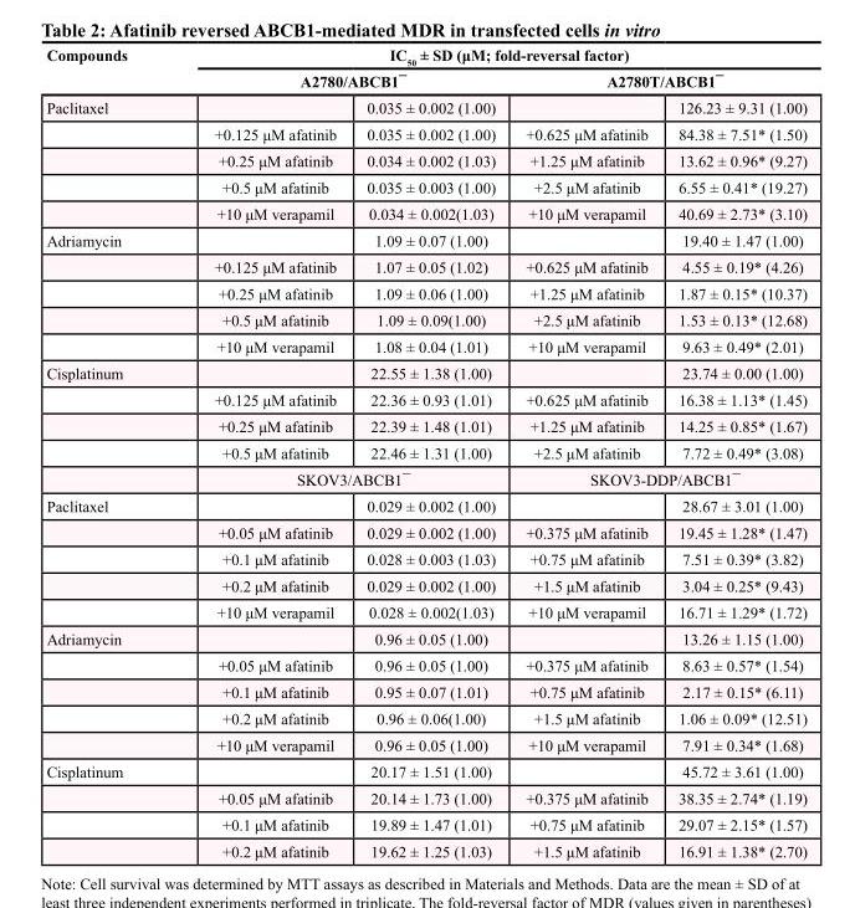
<table><thead><tr><td rowspan="3">Compounds Paclitaxel</td><td colspan="4">IC<sub>50</sub> ± SD (μM; fold-reversal factor)</td></tr><tr><td colspan="2">A2780/ABCB1¯</td><td colspan="2">A2780T/ABCB1¯</td></tr><tr><td></td><td>0.035 ± 0.002 (1.00)</td><td></td><td>126.23 ± 9.31 (1.00)</td></tr></thead><tbody><tr><td></td><td>+0.125 μM afatinib</td><td>0.035 ± 0.002 (1.00)</td><td>+0.625 μM afatinib</td><td>84.38 ± 7.51* (1.50)</td></tr><tr><td></td><td>+0.25 μM afatinib</td><td>0.034 ± 0.002 (1.03)</td><td>+1.25 μM afatinib</td><td>13.62 ± 0.96* (9.27)</td></tr><tr><td></td><td>+0.5 μM afatinib</td><td>0.035 ± 0.003 (1.00)</td><td>+2.5 μM afatinib</td><td>6.55 ± 0.41* (19.27)</td></tr><tr><td></td><td>+10 μM verapamil</td><td>0.034 ± 0.002(1.03)</td><td>+10 μM verapamil</td><td>40.69 ± 2.73* (3.10)</td></tr><tr><td rowspan="5">Adriamycin</td><td></td><td>1.09 ± 0.07 (1.00)</td><td></td><td>19.40 ± 1.47 (1.00)</td></tr><tr><td>+0.125 μM afatinib</td><td>1.07 ± 0.05 (1.02)</td><td>+0.625 μM afatinib</td><td>4.55 ± 0.19* (4.26)</td></tr><tr><td>+0.25 μM afatinib</td><td>1.09 ± 0.06 (1.00)</td><td>+1.25 μM afatinib</td><td>1.87 ± 0.15* (10.37)</td></tr><tr><td>+0.5 μM afatinib</td><td>1.09 ± 0.09(1.00)</td><td>+2.5 μM afatinib</td><td>1.53 ± 0.13* (12.68)</td></tr><tr><td>+10 μM verapamil</td><td>1.08 ± 0.04 (1.01)</td><td>+10 μM verapamil</td><td>9.63 ± 0.49* (2.01)</td></tr><tr><td rowspan="5">Cisplatinum</td><td></td><td>22.55 ± 1.38 (1.00)</td><td></td><td>23.74 ± 0.00 (1.00)</td></tr><tr><td>+0.125 μM afatinib</td><td>22.36 ± 0.93 (1.01)</td><td>+0.625 μM afatinib</td><td>16.38 ± 1.13* (1.45)</td></tr><tr><td>+0.25 μM afatinib</td><td>22.39 ± 1.48 (1.01)</td><td>+1.25 μM afatinib</td><td>14.25 ± 0.85* (1.67)</td></tr><tr><td>+0.5 μM afatinib</td><td>22.46 ± 1.31 (1.00)</td><td>+2.5 μM afatinib</td><td>7.72 ± 0.49* (3.08)</td></tr><tr><td colspan="2">SKOV3/ABCB1¯</td><td colspan="2">SKOV3-DDP/ABCB1¯</td></tr><tr><td rowspan="5">Paclitaxel</td><td></td><td>0.029 ± 0.002 (1.00)</td><td></td><td>28.67 ± 3.01 (1.00)</td></tr><tr><td>+0.05 μM afatinib</td><td>0.029 ± 0.002 (1.00)</td><td>+0.375 μM afatinib</td><td>19.45 ± 1.28* (1.47)</td></tr><tr><td>+0.1 μM afatinib</td><td>0.028 ± 0.003 (1.03)</td><td>+0.75 μM afatinib</td><td>7.51 ± 0.39* (3.82)</td></tr><tr><td>+0.2 μM afatinib</td><td>0.029 ± 0.002 (1.00)</td><td>+1.5 μM afatinib</td><td>3.04 ± 0.25* (9.43)</td></tr><tr><td>+10 μM verapamil</td><td>0.028 ± 0.002(1.03)</td><td>+10 μM verapamil</td><td>16.71 ± 1.29* (1.72)</td></tr><tr><td rowspan="5">Adriamycin</td><td></td><td>0.96 ± 0.05 (1.00)</td><td></td><td>13.26 ± 1.15 (1.00)</td></tr><tr><td>+0.05 μM afatinib</td><td>0.96 ± 0.05 (1.00)</td><td>+0.375 μM afatinib</td><td>8.63 ± 0.57* (1.54)</td></tr><tr><td>+0.1 μM afatinib</td><td>0.95 ± 0.07 (1.01)</td><td>+0.75 μM afatinib</td><td>2.17 ± 0.15* (6.11)</td></tr><tr><td>+0.2 μM afatinib</td><td>0.96 ± 0.06(1.00)</td><td>+1.5 μM afatinib</td><td>1.06 ± 0.09* (12.51)</td></tr><tr><td>+10 μM verapamil</td><td>0.96 ± 0.05 (1.00)</td><td>+10 μM verapamil</td><td>7.91 ± 0.34* (1.68)</td></tr><tr><td rowspan="4">Cisplatinum</td><td></td><td>20.17 ± 1.51 (1.00)</td><td></td><td>45.72 ± 3.61 (1.00)</td></tr><tr><td>+0.05 μM afatinib</td><td>20.14 ± 1.73 (1.00)</td><td>+0.375 μM afatinib</td><td>38.35 ± 2.74* (1.19)</td></tr><tr><td>+0.1 μM afatinib</td><td>19.89 ± 1.47 (1.01)</td><td>+0.75 μM afatinib</td><td>29.07 ± 2.15* (1.57)</td></tr><tr><td>+0.2 μM afatinib</td><td>19.62 ± 1.25 (1.03)</td><td>+1.5 μM afatinib</td><td>16.91 ± 1.38* (2.70)</td></tr></tbody></table>